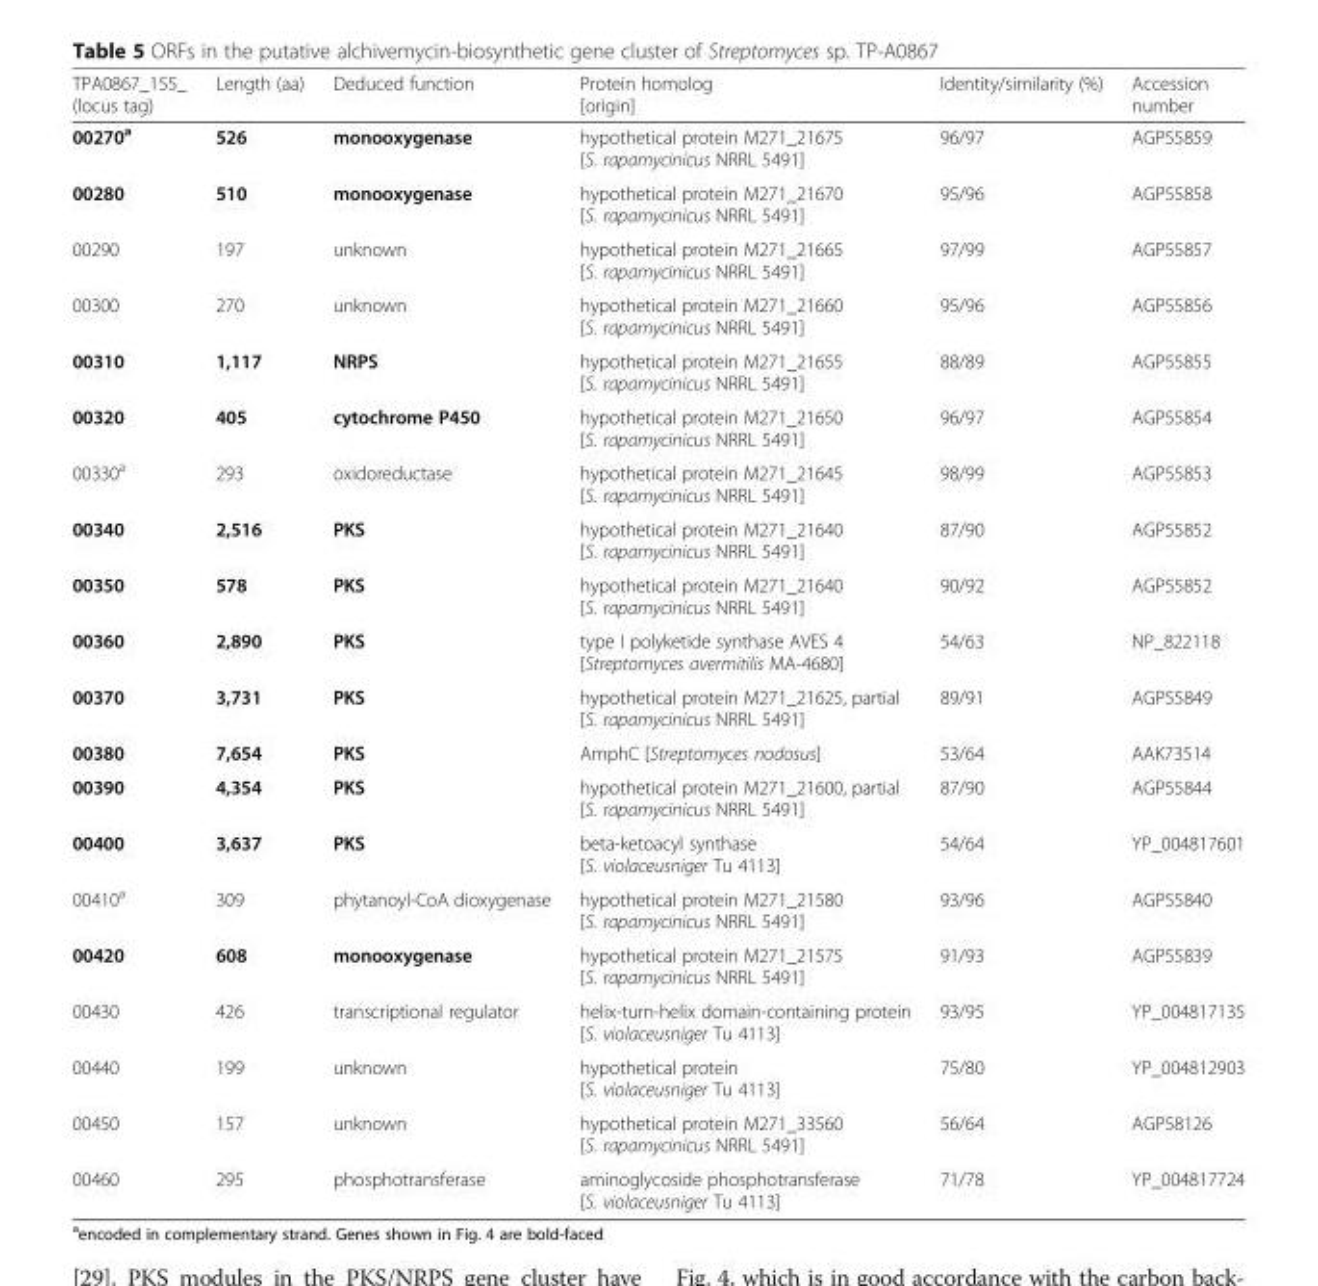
<table><thead><tr><td>TPA0867_155_ (locus tag)</td><td>Length (aa)</td><td>Deduced function</td><td>Protein homolog [origin]</td><td>Identity/similarity (%)</td><td>Accession number</td></tr></thead><tbody><tr><td>00270<sup>a</sup></td><td>526</td><td>monooxygenase</td><td>hypothetical protein M271_21675 [S. rapamycinicus NRRL 5491]</td><td>96/97</td><td>AGP55859</td></tr><tr><td>00280</td><td>510</td><td>monooxygenase</td><td>hypothetical protein M271_21670 [S. rapamycinicus NRRL 5491]</td><td>95/96</td><td>AGP55858</td></tr><tr><td>00290</td><td>197</td><td>unknown</td><td>hypothetical protein M271_21665 [S. rapamycinicus NRRL 5491]</td><td>97/99</td><td>AGP55857</td></tr><tr><td>00300</td><td>270</td><td>unknown</td><td>hypothetical protein M271_21660 [S. rapamycinicus NRRL 5491]</td><td>95/96</td><td>AGP55856</td></tr><tr><td>00310</td><td>1,117</td><td>NRPS</td><td>hypothetical protein M271_21655 [S. rapamycinicus NRRL 5491]</td><td>88/89</td><td>AGP55855</td></tr><tr><td>00320</td><td>405</td><td>cytochrome P450</td><td>hypothetical protein M271_21650 [S. rapamycinicus NRRL 5491]</td><td>96/97</td><td>AGP55854</td></tr><tr><td>00330<sup>a</sup></td><td>293</td><td>oxidoreductase</td><td>hypothetical protein M271_21645 [S. rapamycinicus NRRL 5491]</td><td>98/99</td><td>AGP55853</td></tr><tr><td>00340</td><td>2,516</td><td>PKS</td><td>hypothetical protein M271_21640 [S. rapamycinicus NRRL 5491]</td><td>87/90</td><td>AGP55852</td></tr><tr><td>00350</td><td>578</td><td>PKS</td><td>hypothetical protein M271_21640 [S. rapamycinicus NRRL 5491]</td><td>90/92</td><td>AGP55852</td></tr><tr><td>00360</td><td>2,890</td><td>PKS</td><td>type I polyketide synthase AVES 4 [Streptomyces avermitilis MA-4680]</td><td>54/63</td><td>NP_822118</td></tr><tr><td>00370</td><td>3,731</td><td>PKS</td><td>hypothetical protein M271_21625, partial [S. rapamycinicus NRRL 5491]</td><td>89/91</td><td>AGP55849</td></tr><tr><td>00380</td><td>7,654</td><td>PKS</td><td>AmphC [Streptomyces nodosus]</td><td>53/64</td><td>AAK73514</td></tr><tr><td>00390</td><td>4,354</td><td>PKS</td><td>hypothetical protein M271_21600, partial [S. rapamycinicus NRRL 5491]</td><td>87/90</td><td>AGP55844</td></tr><tr><td>00400</td><td>3,637</td><td>PKS</td><td>beta-ketoacyl synthase [S. violaceusniger Tu 4113]</td><td>54/64</td><td>YP_004817601</td></tr><tr><td>00410<sup>a</sup></td><td>309</td><td>phytanoyl-CoA dioxygenase</td><td>hypothetical protein M271_21580 [S. rapamycinicus NRRL 5491]</td><td>93/96</td><td>AGP55840</td></tr><tr><td>00420</td><td>608</td><td>monooxygenase</td><td>hypothetical protein M271_21575 [S. rapamycinicus NRRL 5491]</td><td>91/93</td><td>AGP55839</td></tr><tr><td>00430</td><td>426</td><td>transcriptional regulator</td><td>helix-turn-helix domain-containing protein [S. violaceusniger Tu 4113]</td><td>93/95</td><td>YP_004817135</td></tr><tr><td>00440</td><td>199</td><td>unknown</td><td>hypothetical protein [S. violaceusniger Tu 4113]</td><td>75/80</td><td>YP_004812903</td></tr><tr><td>00450</td><td>157</td><td>unknown</td><td>hypothetical protein M271_33560 [S. rapamycinicus NRRL 5491]</td><td>56/64</td><td>AGP58126</td></tr><tr><td>00460</td><td>295</td><td>phosphotransferase</td><td>aminoglycoside phosphotransferase [S. violaceusniger Tu 4113]</td><td>71/78</td><td>YP_004817724</td></tr></tbody></table>